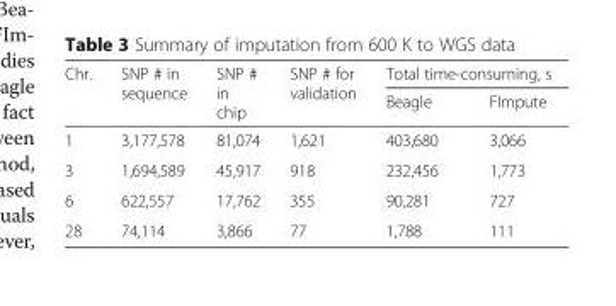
<table><thead><tr><td rowspan="2">Chr.</td><td rowspan="2">SNP # in sequence</td><td rowspan="2">SNP # in chip</td><td rowspan="2">SNP # for validation</td><td colspan="2">Total time-consuming, s</td></tr><tr><td>Beagle</td><td>FImpute</td></tr></thead><tbody><tr><td>1</td><td>3,177,578</td><td>81,074</td><td>1,621</td><td>403,680</td><td>3,066</td></tr><tr><td>3</td><td>1,694,589</td><td>45,917</td><td>918</td><td>232,456</td><td>1,773</td></tr><tr><td>6</td><td>622,557</td><td>17,762</td><td>355</td><td>90,281</td><td>727</td></tr><tr><td>28</td><td>74,114</td><td>3,866</td><td>77</td><td>1,788</td><td>111</td></tr></tbody></table>